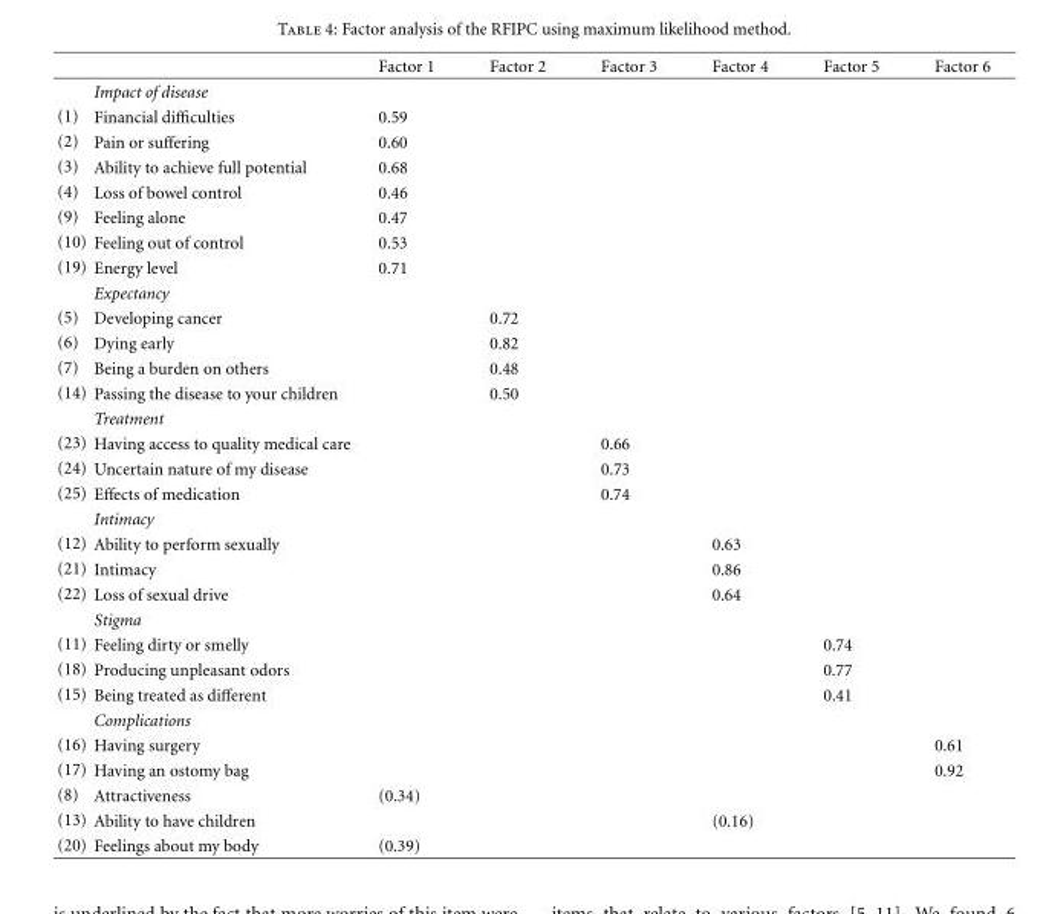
<table><thead><tr><td></td><td></td><td>Factor 1</td><td>Factor 2</td><td>Factor 3</td><td>Factor 4</td><td>Factor 5</td><td>Factor 6</td></tr></thead><tbody><tr><td></td><td>Impact of disease</td><td></td><td></td><td></td><td></td><td></td><td></td></tr><tr><td>(1)</td><td>Financial difficulties</td><td>0.59</td><td></td><td></td><td></td><td></td><td></td></tr><tr><td>(2)</td><td>Pain or suffering</td><td>0.60</td><td></td><td></td><td></td><td></td><td></td></tr><tr><td>(3)</td><td>Ability to achieve full potential</td><td>0.68</td><td></td><td></td><td></td><td></td><td></td></tr><tr><td>(4)</td><td>Loss of bowel control</td><td>0.46</td><td></td><td></td><td></td><td></td><td></td></tr><tr><td>(9)</td><td>Feeling alone</td><td>0.47</td><td></td><td></td><td></td><td></td><td></td></tr><tr><td>(10)</td><td>Feeling out of control</td><td>0.53</td><td></td><td></td><td></td><td></td><td></td></tr><tr><td rowspan="2">(19)</td><td>Energy level</td><td>0.71</td><td></td><td></td><td></td><td></td><td></td></tr><tr><td>Expectancy</td><td></td><td></td><td></td><td></td><td></td><td></td></tr><tr><td>(5)</td><td>Developing cancer</td><td></td><td>0.72</td><td></td><td></td><td></td><td></td></tr><tr><td>(6)</td><td>Dying early</td><td></td><td>0.82</td><td></td><td></td><td></td><td></td></tr><tr><td>(7)</td><td>Being a burden on others</td><td></td><td>0.48</td><td></td><td></td><td></td><td></td></tr><tr><td rowspan="2">(14)</td><td>Passing the disease to your children</td><td></td><td>0.50</td><td></td><td></td><td></td><td></td></tr><tr><td>Treatment</td><td></td><td></td><td></td><td></td><td></td><td></td></tr><tr><td>(23)</td><td>Having access to quality medical care</td><td></td><td></td><td>0.66</td><td></td><td></td><td></td></tr><tr><td>(24)</td><td>Uncertain nature of my disease</td><td></td><td></td><td>0.73</td><td></td><td></td><td></td></tr><tr><td rowspan="2">(25)</td><td>Effects of medication</td><td></td><td></td><td>0.74</td><td></td><td></td><td></td></tr><tr><td>Intimacy</td><td></td><td></td><td></td><td></td><td></td><td></td></tr><tr><td>(12)</td><td>Ability to perform sexually</td><td></td><td></td><td></td><td>0.63</td><td></td><td></td></tr><tr><td>(21)</td><td>Intimacy</td><td></td><td></td><td></td><td>0.86</td><td></td><td></td></tr><tr><td rowspan="2">(22)</td><td>Loss of sexual drive</td><td></td><td></td><td></td><td>0.64</td><td></td><td></td></tr><tr><td>Stigma</td><td></td><td></td><td></td><td></td><td></td><td></td></tr><tr><td>(11)</td><td>Feeling dirty or smelly</td><td></td><td></td><td></td><td></td><td>0.74</td><td></td></tr><tr><td>(18)</td><td>Producing unpleasant odors</td><td></td><td></td><td></td><td></td><td>0.77</td><td></td></tr><tr><td rowspan="2">(15)</td><td>Being treated as different</td><td></td><td></td><td></td><td></td><td>0.41</td><td></td></tr><tr><td>Complications</td><td></td><td></td><td></td><td></td><td></td><td></td></tr><tr><td>(16)</td><td>Having surgery</td><td></td><td></td><td></td><td></td><td></td><td>0.61</td></tr><tr><td>(17)</td><td>Having an ostomy bag</td><td></td><td></td><td></td><td></td><td></td><td>0.92</td></tr><tr><td>(8)</td><td>Attractiveness</td><td>(0.34)</td><td></td><td></td><td></td><td></td><td></td></tr><tr><td>(13)</td><td>Ability to have children</td><td></td><td></td><td></td><td>(0.16)</td><td></td><td></td></tr><tr><td>(20)</td><td>Feelings about my body</td><td>(0.39)</td><td></td><td></td><td></td><td></td><td></td></tr></tbody></table>